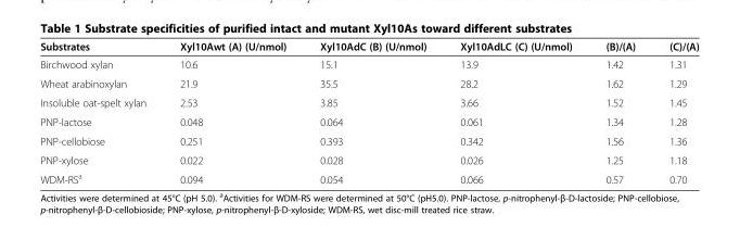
<table><thead><tr><td>Substrates</td><td>Xyl10Awt (A) (U/nmol)</td><td>Xyl10AdC (B) (U/nmol)</td><td>Xyl10AdLC (C) (U/nmol)</td><td>(B)/(A)</td><td>(C)/(A)</td></tr></thead><tbody><tr><td>Birchwood xylan</td><td>10.6</td><td>15.1</td><td>13.9</td><td>1.42</td><td>1.31</td></tr><tr><td>Wheat arabinoxylan</td><td>21.9</td><td>35.5</td><td>28.2</td><td>1.62</td><td>1.29</td></tr><tr><td>Insoluble oat-spelt xylan</td><td>2.53</td><td>3.85</td><td>3.66</td><td>1.52</td><td>1.45</td></tr><tr><td>PNP-lactose</td><td>0.048</td><td>0.064</td><td>0.061</td><td>1.34</td><td>1.28</td></tr><tr><td>PNP-cellobiose</td><td>0.251</td><td>0.393</td><td>0.342</td><td>1.56</td><td>1.36</td></tr><tr><td>PNP-xylose</td><td>0.022</td><td>0.028</td><td>0.026</td><td>1.25</td><td>1.18</td></tr><tr><td>WDM-RS<sup>a</sup></td><td>0.094</td><td>0.054</td><td>0.066</td><td>0.57</td><td>0.70</td></tr></tbody></table>